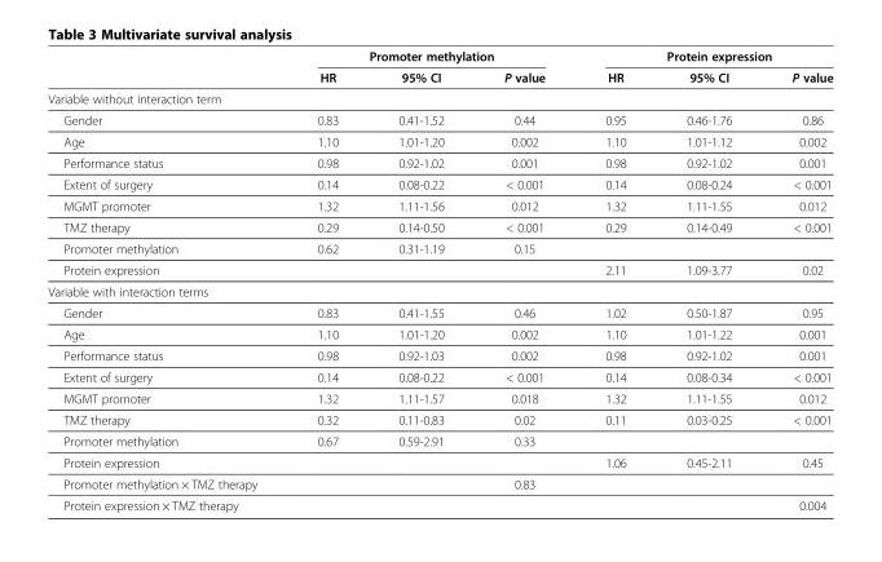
<table><thead><tr><td rowspan="2"></td><td colspan="3">Promoter methylation</td><td colspan="3">Protein expression</td></tr><tr><td>HR</td><td>95% CI</td><td>P value</td><td>HR</td><td>95% CI</td><td>P value</td></tr></thead><tbody><tr><td colspan="7">Variable without interaction term</td></tr><tr><td>Gender</td><td>0.83</td><td>0.41-1.52</td><td>0.44</td><td>0.95</td><td>0.46-1.76</td><td>0.86</td></tr><tr><td>Age</td><td>1.10</td><td>1.01-1.20</td><td>0.002</td><td>1.10</td><td>1.01-1.12</td><td>0.002</td></tr><tr><td>Performance status</td><td>0.98</td><td>0.92-1.02</td><td>0.001</td><td>0.98</td><td>0.92-1.02</td><td>0.001</td></tr><tr><td>Extent of surgery</td><td>0.14</td><td>0.08-0.22</td><td>&lt; 0.001</td><td>0.14</td><td>0.08-0.24</td><td>&lt; 0.001</td></tr><tr><td>MGMT promoter</td><td>1.32</td><td>1.11-1.56</td><td>0.012</td><td>1.32</td><td>1.11-1.55</td><td>0.012</td></tr><tr><td>TMZ therapy</td><td>0.29</td><td>0.14-0.50</td><td>&lt; 0.001</td><td>0.29</td><td>0.14-0.49</td><td>&lt; 0.001</td></tr><tr><td>Promoter methylation</td><td>0.62</td><td>0.31-1.19</td><td>0.15</td><td></td><td></td><td></td></tr><tr><td>Protein expression</td><td></td><td></td><td></td><td>2.11</td><td>1.09-3.77</td><td>0.02</td></tr><tr><td colspan="7">Variable with interaction terms</td></tr><tr><td>Gender</td><td>0.83</td><td>0.41-1.55</td><td>0.46</td><td>1.02</td><td>0.50-1.87</td><td>0.95</td></tr><tr><td>Age</td><td>1.10</td><td>1.01-1.20</td><td>0.002</td><td>1.10</td><td>1.01-1.22</td><td>0.001</td></tr><tr><td>Performance status</td><td>0.98</td><td>0.92-1.03</td><td>0.002</td><td>0.98</td><td>0.92-1.02</td><td>0.001</td></tr><tr><td>Extent of surgery</td><td>0.14</td><td>0.08-0.22</td><td>&lt; 0.001</td><td>0.14</td><td>0.08-0.34</td><td>&lt; 0.001</td></tr><tr><td>MGMT promoter</td><td>1.32</td><td>1.11-1.57</td><td>0.018</td><td>1.32</td><td>1.11-1.55</td><td>0.012</td></tr><tr><td>TMZ therapy</td><td>0.32</td><td>0.11-0.83</td><td>0.02</td><td>0.11</td><td>0.03-0.25</td><td>&lt; 0.001</td></tr><tr><td>Promoter methylation</td><td>0.67</td><td>0.59-2.91</td><td>0.33</td><td></td><td></td><td></td></tr><tr><td>Protein expression</td><td></td><td></td><td></td><td>1.06</td><td>0.45-2.11</td><td>0.45</td></tr><tr><td>Promoter methylation × TMZ therapy</td><td></td><td></td><td>0.83</td><td></td><td></td><td></td></tr><tr><td>Protein expression × TMZ therapy</td><td></td><td></td><td></td><td></td><td></td><td>0.004</td></tr></tbody></table>